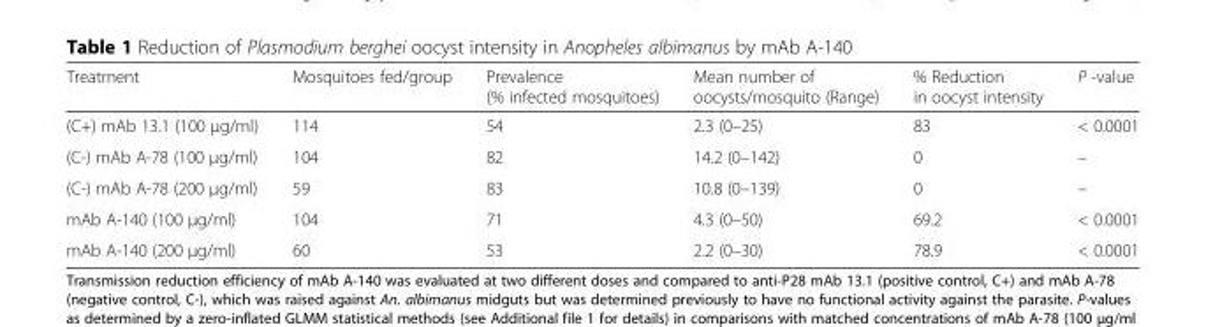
<table><thead><tr><td>Treatment</td><td>Mosquitoes fed/group</td><td>Prevalence (% infected mosquitoes)</td><td>Mean number of oocysts/mosquito (Range)</td><td>% Reduction in oocyst intensity</td><td>P -value</td></tr></thead><tbody><tr><td>(C+) mAb 13.1 (100 μg/ml)</td><td>114</td><td>54</td><td>2.3 (0–25)</td><td>83</td><td>&lt; 0.0001</td></tr><tr><td>(C-) mAb A-78 (100 μg/ml)</td><td>104</td><td>82</td><td>14.2 (0–142)</td><td>0</td><td>–</td></tr><tr><td>(C-) mAb A-78 (200 μg/ml)</td><td>59</td><td>83</td><td>10.8 (0–139)</td><td>0</td><td>–</td></tr><tr><td>mAb A-140 (100 μg/ml)</td><td>104</td><td>71</td><td>4.3 (0–50)</td><td>69.2</td><td>&lt; 0.0001</td></tr><tr><td>mAb A-140 (200 μg/ml)</td><td>60</td><td>53</td><td>2.2 (0–30)</td><td>78.9</td><td>&lt; 0.0001</td></tr></tbody></table>